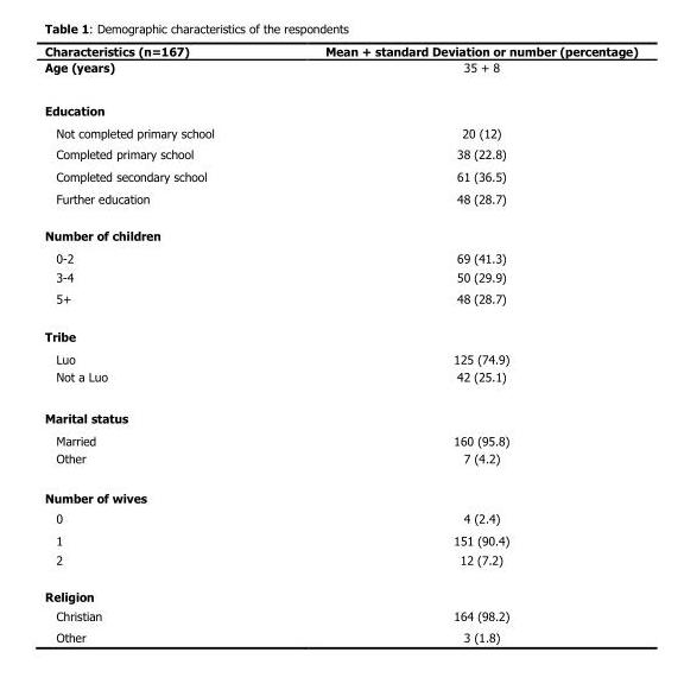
<table><thead><tr><td>Characteristics (n=167)</td><td>Mean + standard Deviation or number (percentage)</td></tr></thead><tbody><tr><td>Age (years)</td><td>35 + 8</td></tr><tr><td colspan="2">Education</td></tr><tr><td>Not completed primary school</td><td>20 (12)</td></tr><tr><td>Completed primary school</td><td>38 (22.8)</td></tr><tr><td>Completed secondary school</td><td>61 (36.5)</td></tr><tr><td>Further education</td><td>48 (28.7)</td></tr><tr><td colspan="2">Number of children</td></tr><tr><td>0-2</td><td>69 (41.3)</td></tr><tr><td>3-4</td><td>50 (29.9)</td></tr><tr><td>5+</td><td>48 (28.7)</td></tr><tr><td colspan="2">Tribe</td></tr><tr><td>Luo</td><td>125 (74.9)</td></tr><tr><td>Not a Luo</td><td>42 (25.1)</td></tr><tr><td colspan="2">Marital status</td></tr><tr><td>Married</td><td>160 (95.8)</td></tr><tr><td>Other</td><td>7 (4.2)</td></tr><tr><td colspan="2">Number of wives</td></tr><tr><td>0</td><td>4 (2.4)</td></tr><tr><td>1</td><td>151 (90.4)</td></tr><tr><td>2</td><td>12 (7.2)</td></tr><tr><td colspan="2">Religion</td></tr><tr><td>Christian</td><td>164 (98.2)</td></tr><tr><td>Other</td><td>3 (1.8)</td></tr></tbody></table>